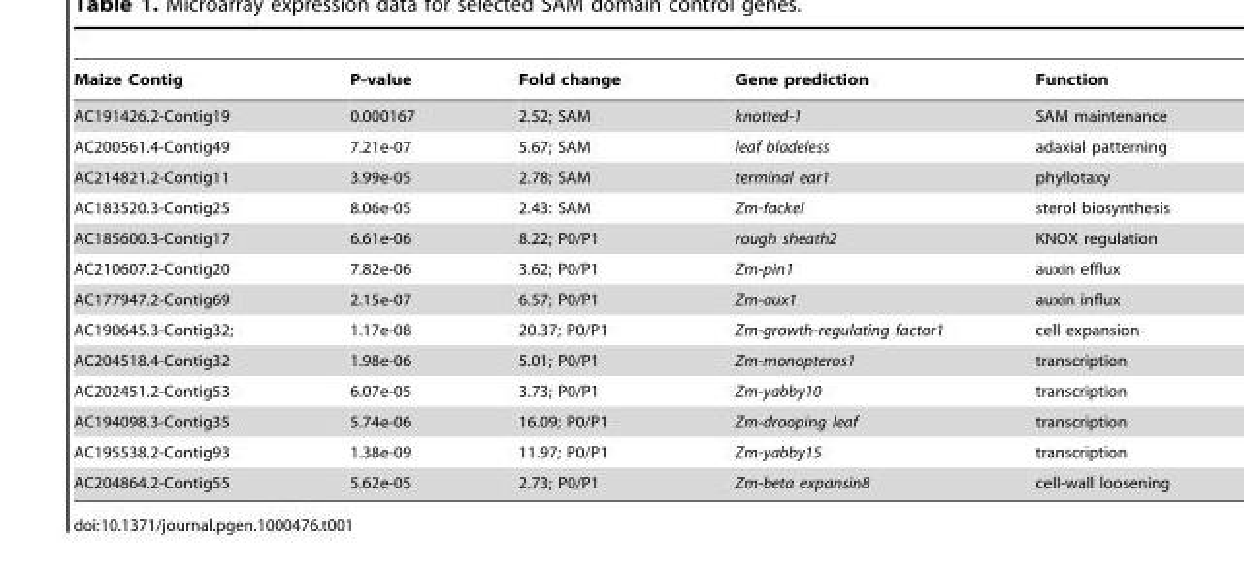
<table><thead><tr><td>Maize Contig</td><td>P-value</td><td>Fold change</td><td>Gene prediction</td><td>Function</td></tr></thead><tbody><tr><td>AC191426.2-Contig19</td><td>0.000167</td><td>2.52; SAM</td><td>knotted-1</td><td>SAM maintenance</td></tr><tr><td>AC200561.4-Contig49</td><td>7.21e-07</td><td>5.67; SAM</td><td>leaf bladeless</td><td>adaxial patterning</td></tr><tr><td>AC214821.2-Contig11</td><td>3.99e-05</td><td>2.78; SAM</td><td>terminal ear1</td><td>phyllotaxy</td></tr><tr><td>AC183520.3-Contig25</td><td>8.06e-05</td><td>2.43: SAM</td><td>Zm-fackel</td><td>sterol biosynthesis</td></tr><tr><td>AC185600.3-Contig17</td><td>6.61e-06</td><td>8.22; P0/P1</td><td>rough sheath2</td><td>KNOX regulation</td></tr><tr><td>AC210607.2-Contig20</td><td>7.82e-06</td><td>3.62; P0/P1</td><td>Zm-pin1</td><td>auxin efflux</td></tr><tr><td>AC177947.2-Contig69</td><td>2.15e-07</td><td>6.57; P0/P1</td><td>Zm-aux1</td><td>auxin influx</td></tr><tr><td>AC190645.3-Contig32;</td><td>1.17e-08</td><td>20.37; P0/P1</td><td>Zm-growth-regulating factor1</td><td>cell expansion</td></tr><tr><td>AC204518.4-Contig32</td><td>1.98e-06</td><td>5.01; P0/P1</td><td>Zm-monopteros1</td><td>transcription</td></tr><tr><td>AC202451.2-Contig53</td><td>6.07e-05</td><td>3.73; P0/P1</td><td>Zm-yabby10</td><td>transcription</td></tr><tr><td>AC194098.3-Contig35</td><td>5.74e-06</td><td>16.09; P0/P1</td><td>Zm-drooping leaf</td><td>transcription</td></tr><tr><td>AC195538.2-Contig93</td><td>1.38e-09</td><td>11.97; P0/P1</td><td>Zm-yabby15</td><td>transcription</td></tr><tr><td>AC204864.2-Contig55</td><td>5.62e-05</td><td>2.73; P0/P1</td><td>Zm-beta expansin8</td><td>cell-wall loosening</td></tr></tbody></table>